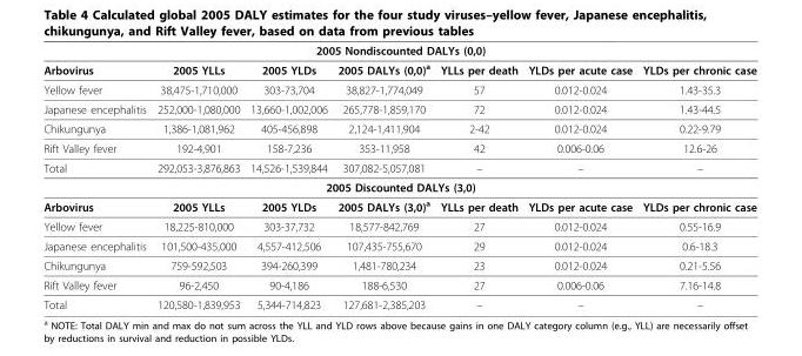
<table><thead><tr><td colspan="7">2005 Nondiscounted DALYs (0,0)</td></tr><tr><td>Arbovirus</td><td>2005 YLLs</td><td>2005 YLDs</td><td>2005 DALYs (0,0)a</td><td>YLLs per death</td><td>YLDs per acute case</td><td>YLDs per chronic case</td></tr></thead><tbody><tr><td>Yellow fever</td><td>38,475-1,710,000</td><td>303-73,704</td><td>38,827-1,774,049</td><td>57</td><td>0.012-0.024</td><td>1.43-35.3</td></tr><tr><td>Japanese encephalitis</td><td>252,000-1,080,000</td><td>13,660-1,002,006</td><td>265,778-1,859,170</td><td>72</td><td>0.012-0.024</td><td>1.43-44.5</td></tr><tr><td>Chikungunya</td><td>1,386-1,081,962</td><td>405-456,898</td><td>2,124-1,411,904</td><td>2-42</td><td>0.012-0.024</td><td>0.22-9.79</td></tr><tr><td>Rift Valley fever</td><td>192-4,901</td><td>158-7,236</td><td>353-11,958</td><td>42</td><td>0.006-0.06</td><td>12.6-26</td></tr><tr><td>Total</td><td>292,053-3,876,863</td><td>14,526-1,539,844</td><td>307,082-5,057,081</td><td>–</td><td>–</td><td>–</td></tr><tr><td colspan="7">2005 Discounted DALYs (3,0)</td></tr><tr><td>Arbovirus</td><td>2005 YLLs</td><td>2005 YLDs</td><td>2005 DALYs (3,0)a</td><td>YLLs per death</td><td>YLDs per acute case</td><td>YLDs per chronic case</td></tr><tr><td>Yellow fever</td><td>18,225-810,000</td><td>303-37,732</td><td>18,577-842,769</td><td>27</td><td>0.012-0.024</td><td>0.55-16.9</td></tr><tr><td>Japanese encephalitis</td><td>101,500-435,000</td><td>4,557-412,506</td><td>107,435-755,670</td><td>29</td><td>0.012-0.024</td><td>0.6-18.3</td></tr><tr><td>Chikungunya</td><td>759-592,503</td><td>394-260,399</td><td>1,481-780,234</td><td>23</td><td>0.012-0.024</td><td>0.21-5.56</td></tr><tr><td>Rift Valley fever</td><td>96-2,450</td><td>90-4,186</td><td>188-6,530</td><td>27</td><td>0.006-0.06</td><td>7.16-14.8</td></tr><tr><td>Total</td><td>120,580-1,839,953</td><td>5,344-714,823</td><td>127,681-2,385,203</td><td>–</td><td>–</td><td>–</td></tr></tbody></table>